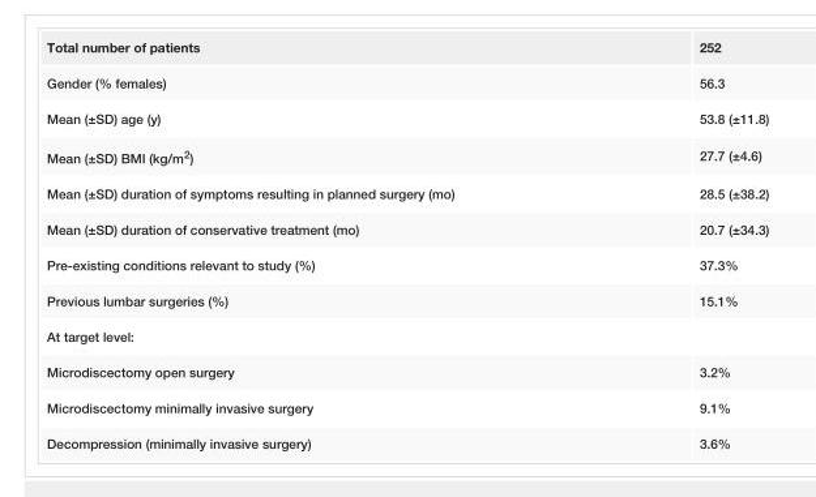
<table><tbody><tr><td>Total number of patients</td><td>252</td></tr><tr><td>Gender (% females)</td><td>56.3</td></tr><tr><td>Mean (±SD) age (y)</td><td>53.8 (±11.8)</td></tr><tr><td>Mean (±SD) BMI (kg/m<sup>2</sup>)</td><td>27.7 (±4.6)</td></tr><tr><td>Mean (±SD) duration of symptoms resulting in planned surgery (mo)</td><td>28.5 (±38.2)</td></tr><tr><td>Mean (±SD) duration of conservative treatment (mo)</td><td>20.7 (±34.3)</td></tr><tr><td>Pre-existing conditions relevant to study (%)</td><td>37.3%</td></tr><tr><td>Previous lumbar surgeries (%)</td><td>15.1%</td></tr><tr><td colspan="2">At target level:</td></tr><tr><td>Microdiscectomy open surgery</td><td>3.2%</td></tr><tr><td>Microdiscectomy minimally invasive surgery</td><td>9.1%</td></tr><tr><td>Decompression (minimally invasive surgery)</td><td>3.6%</td></tr></tbody></table>